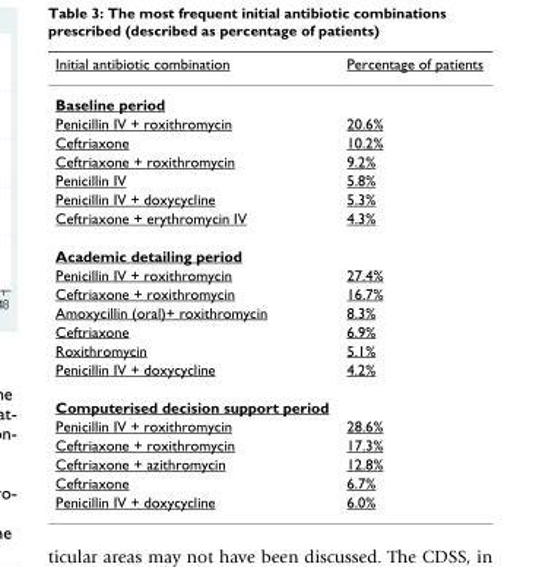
<table><thead><tr><td>Initial antibiotic combination</td><td>Percentage of patients</td></tr></thead><tbody><tr><td colspan="2">Baseline period</td></tr><tr><td>Penicillin IV + roxithromycin</td><td>20.6%</td></tr><tr><td>Ceftriaxone</td><td>10.2%</td></tr><tr><td>Ceftriaxone + roxithromycin</td><td>9.2%</td></tr><tr><td>Penicillin IV</td><td>5.8%</td></tr><tr><td>Penicillin IV + doxycycline</td><td>5.3%</td></tr><tr><td>Ceftriaxone + erythromycin IV</td><td>4.3%</td></tr><tr><td colspan="2">Academic detailing period</td></tr><tr><td>Penicillin IV + roxithromycin</td><td>27.4%</td></tr><tr><td>Ceftriaxone + roxithromycin</td><td>16.7%</td></tr><tr><td>Amoxycillin (oral)+ roxithromycin</td><td>8.3%</td></tr><tr><td>Ceftriaxone</td><td>6.9%</td></tr><tr><td>Roxithromycin</td><td>5.1%</td></tr><tr><td>Penicillin IV + doxycycline</td><td>4.2%</td></tr><tr><td colspan="2">Computerised decision support period</td></tr><tr><td>Penicillin IV + roxithromycin</td><td>28.6%</td></tr><tr><td>Ceftriaxone + roxithromycin</td><td>17.3%</td></tr><tr><td>Ceftriaxone + azithromycin</td><td>12.8%</td></tr><tr><td>Ceftriaxone</td><td>6.7%</td></tr><tr><td>Penicillin IV + doxycycline</td><td>6.0%</td></tr></tbody></table>